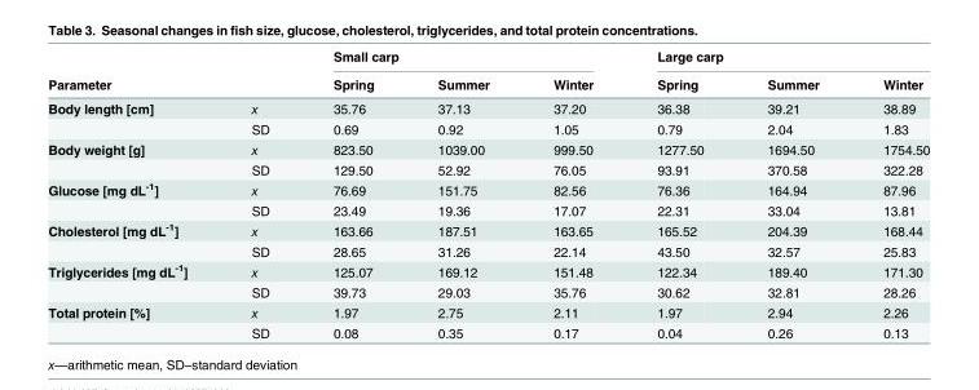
<table><thead><tr><td rowspan="2">Parameter</td><td rowspan="2"></td><td colspan="3">Small carp</td><td colspan="3">Large carp</td></tr><tr><td>Spring</td><td>Summer</td><td>Winter</td><td>Spring</td><td>Summer</td><td>Winter</td></tr></thead><tbody><tr><td rowspan="2">Body length [cm]</td><td>x</td><td>35.76</td><td>37.13</td><td>37.20</td><td>36.38</td><td>39.21</td><td>38.89</td></tr><tr><td>SD</td><td>0.69</td><td>0.92</td><td>1.05</td><td>0.79</td><td>2.04</td><td>1.83</td></tr><tr><td rowspan="2">Body weight [g]</td><td>x</td><td>823.50</td><td>1039.00</td><td>999.50</td><td>1277.50</td><td>1694.50</td><td>1754.50</td></tr><tr><td>SD</td><td>129.50</td><td>52.92</td><td>76.05</td><td>93.91</td><td>370.58</td><td>322.28</td></tr><tr><td rowspan="2">Glucose [mg dL<sup>-1</sup>]</td><td>x</td><td>76.69</td><td>151.75</td><td>82.56</td><td>76.36</td><td>164.94</td><td>87.96</td></tr><tr><td>SD</td><td>23.49</td><td>19.36</td><td>17.07</td><td>22.31</td><td>33.04</td><td>13.81</td></tr><tr><td rowspan="2">Cholesterol [mg dL<sup>-1</sup>]</td><td>x</td><td>163.66</td><td>187.51</td><td>163.65</td><td>165.52</td><td>204.39</td><td>168.44</td></tr><tr><td>SD</td><td>28.65</td><td>31.26</td><td>22.14</td><td>43.50</td><td>32.57</td><td>25.83</td></tr><tr><td rowspan="2">Triglycerides [mg dL<sup>-1</sup>]</td><td>x</td><td>125.07</td><td>169.12</td><td>151.48</td><td>122.34</td><td>189.40</td><td>171.30</td></tr><tr><td>SD</td><td>39.73</td><td>29.03</td><td>35.76</td><td>30.62</td><td>32.81</td><td>28.26</td></tr><tr><td rowspan="2">Total protein [%]</td><td>x</td><td>1.97</td><td>2.75</td><td>2.11</td><td>1.97</td><td>2.94</td><td>2.26</td></tr><tr><td>SD</td><td>0.08</td><td>0.35</td><td>0.17</td><td>0.04</td><td>0.26</td><td>0.13</td></tr></tbody></table>